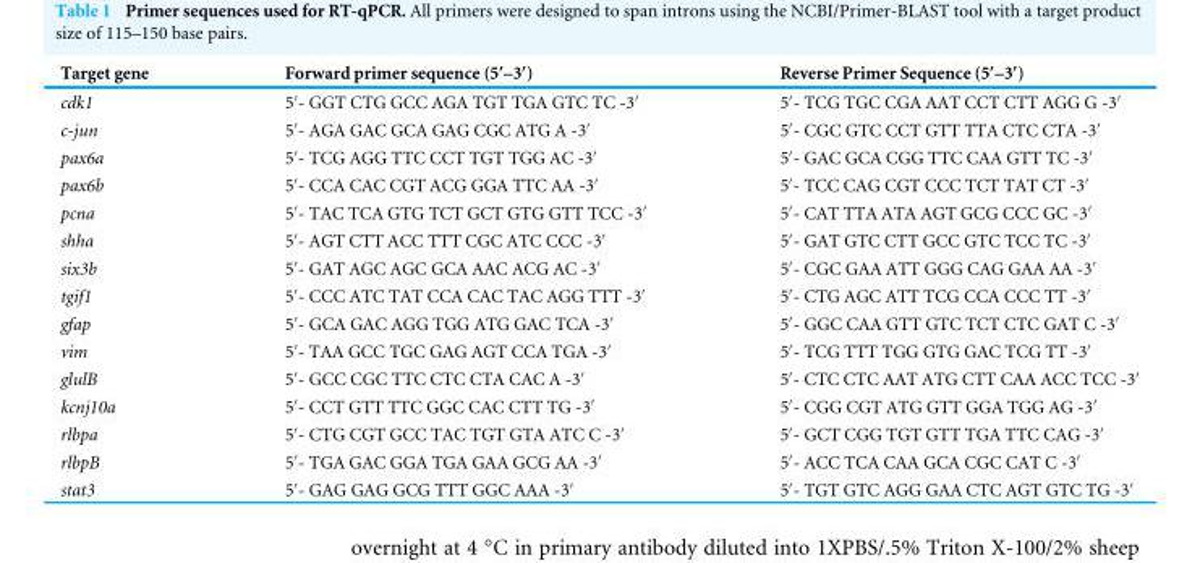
<table><thead><tr><td>Target gene</td><td>Forward primer sequence (5′–3′)</td><td>Reverse Primer Sequence (5′–3′)</td></tr></thead><tbody><tr><td>cdk1</td><td>5′- GGT CTG GCC AGA TGT TGA GTC TC -3′</td><td>5′- TCG TGC CGA AAT CCT CTT AGG G -3′</td></tr><tr><td>c-jun</td><td>5′- AGA GAC GCA GAG CGC ATG A -3′</td><td>5′- CGC GTC CCT GTT TTA CTC CTA -3′</td></tr><tr><td>pax6a</td><td>5′- TCG AGG TTC CCT TGT TGG AC -3′</td><td>5′- GAC GCA CGG TTC CAA GTT TC -3′</td></tr><tr><td>pax6b</td><td>5′- CCA CAC CGT ACG GGA TTC AA -3′</td><td>5′- TCC CAG CGT CCC TCT TAT CT -3′</td></tr><tr><td>pcna</td><td>5′- TAC TCA GTG TCT GCT GTG GTT TCC -3′</td><td>5′- CAT TTA ATA AGT GCG CCC GC -3′</td></tr><tr><td>shha</td><td>5′- AGT CTT ACC TTT CGC ATC CCC -3′</td><td>5′- GAT GTC CTT GCC GTC TCC TC -3′</td></tr><tr><td>six3b</td><td>5′- GAT AGC AGC GCA AAC ACG AC -3′</td><td>5′- CGC GAA ATT GGG CAG GAA AA -3′</td></tr><tr><td>tgif1</td><td>5′- CCC ATC TAT CCA CAC TAC AGG TTT -3′</td><td>5′- CTG AGC ATT TCG CCA CCC TT -3′</td></tr><tr><td>gfap</td><td>5′- GCA GAC AGG TGG ATG GAC TCA -3′</td><td>5′- GGC CAA GTT GTC TCT CTC GAT C -3′</td></tr><tr><td>vim</td><td>5′- TAA GCC TGC GAG AGT CCA TGA -3′</td><td>5′- TCG TTT TGG GTG GAC TCG TT -3′</td></tr><tr><td>glulB</td><td>5′- GCC CGC TTC CTC CTA CAC A -3′</td><td>5′- CTC CTC AAT ATG CTT CAA ACC TCC -3′</td></tr><tr><td>kcnj10a</td><td>5′- CCT GTT TTC GGC CAC CTT TG -3′</td><td>5′- CGG CGT ATG GTT GGA TGG AG -3′</td></tr><tr><td>rlbpa</td><td>5′- CTG CGT GCC TAC TGT GTA ATC C -3′</td><td>5′- GCT CGG TGT GTT TGA TTC CAG -3′</td></tr><tr><td>rlbpB</td><td>5′- TGA GAC GGA TGA GAA GCG AA -3′</td><td>5′- ACC TCA CAA GCA CGC CAT C -3′</td></tr><tr><td>stat3</td><td>5′- GAG GAG GCG TTT GGC AAA -3′</td><td>5′- TGT GTC AGG GAA CTC AGT GTC TG -3′</td></tr></tbody></table>